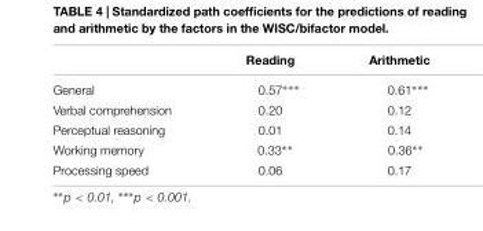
<table><thead><tr><td></td><td>Reading</td><td>Arithmetic</td></tr></thead><tbody><tr><td>General</td><td>0.57∗∗∗</td><td>0.61∗∗∗</td></tr><tr><td>Verbal comprehension</td><td>0.20</td><td>0.12</td></tr><tr><td>Perceptual reasoning</td><td>0.01</td><td>0.14</td></tr><tr><td>Working memory</td><td>0.33∗∗</td><td>0.36∗∗</td></tr><tr><td>Processing speed</td><td>0.06</td><td>0.17</td></tr></tbody></table>